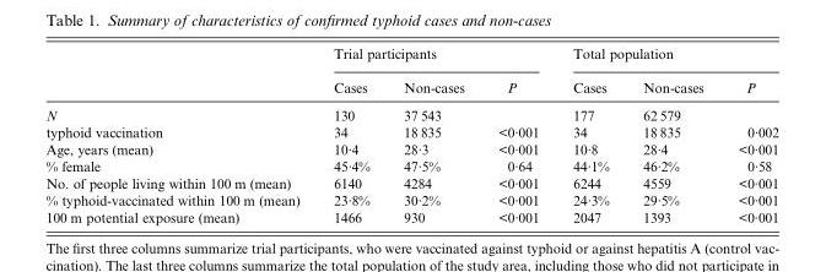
<table><thead><tr><td rowspan="2"></td><td colspan="3">Trial participants</td><td colspan="3">Total population</td></tr><tr><td>Cases</td><td>Non-cases</td><td>P</td><td>Cases</td><td>Non-cases</td><td>P</td></tr></thead><tbody><tr><td>N</td><td>130</td><td>37 543</td><td></td><td>177</td><td>62 579</td><td></td></tr><tr><td>typhoid vaccination</td><td>34</td><td>18 835</td><td>&lt;0·001</td><td>34</td><td>18 835</td><td>0·002</td></tr><tr><td>Age, years (mean)</td><td>10·4</td><td>28·3</td><td>&lt;0·001</td><td>10·8</td><td>28·4</td><td>&lt;0·001</td></tr><tr><td>% female</td><td>45·4%</td><td>47·5%</td><td>0·64</td><td>44·1%</td><td>46·2%</td><td>0·58</td></tr><tr><td>No. of people living within 100 m (mean)</td><td>6140</td><td>4284</td><td>&lt;0·001</td><td>6244</td><td>4559</td><td>&lt;0·001</td></tr><tr><td>% typhoid-vaccinated within 100 m (mean)</td><td>23·8%</td><td>30·2%</td><td>&lt;0·001</td><td>24·3%</td><td>29·5%</td><td>&lt;0·001</td></tr><tr><td>100 m potential exposure (mean)</td><td>1466</td><td>930</td><td>&lt;0·001</td><td>2047</td><td>1393</td><td>&lt;0·001</td></tr></tbody></table>